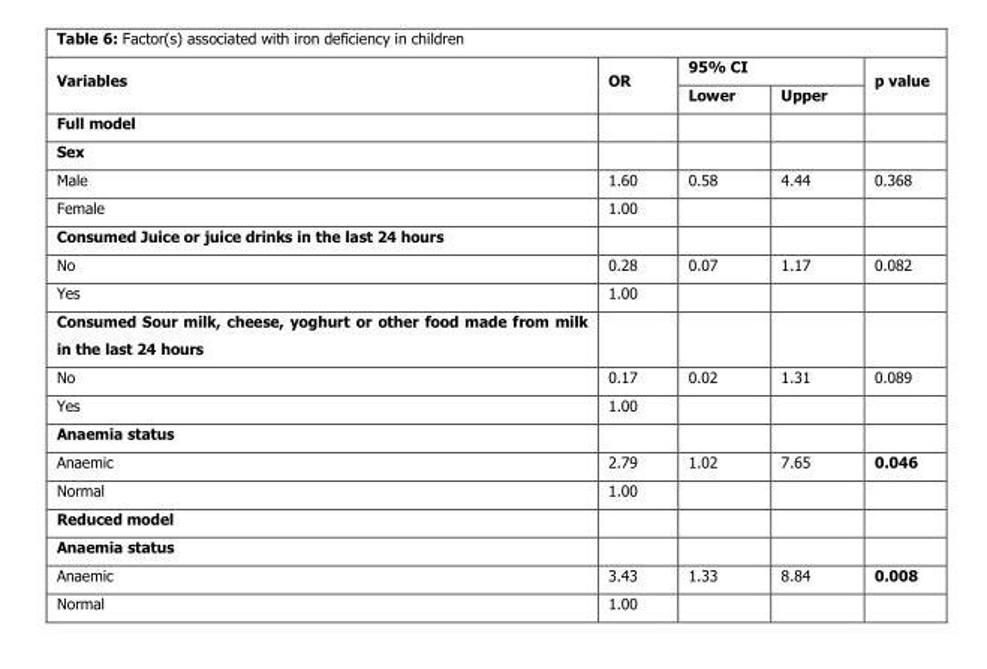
<table><thead><tr><td rowspan="2">Variables</td><td rowspan="2">OR</td><td colspan="2">95% CI</td><td rowspan="2">p value</td></tr><tr><td>Lower</td><td>Upper</td></tr></thead><tbody><tr><td colspan="5">Full model</td></tr><tr><td colspan="5">Sex</td></tr><tr><td>Male</td><td>1.60</td><td>0.58</td><td>4.44</td><td>0.368</td></tr><tr><td>Female</td><td>1.00</td><td></td><td></td><td></td></tr><tr><td colspan="5">Consumed Juice or juice drinks in the last 24 hours</td></tr><tr><td>No</td><td>0.28</td><td>0.07</td><td>1.17</td><td>0.082</td></tr><tr><td>Yes</td><td>1.00</td><td></td><td></td><td></td></tr><tr><td colspan="5">Consumed Sour milk, cheese, yoghurt or other food made from milk in the last 24 hours</td></tr><tr><td>No</td><td>0.17</td><td>0.02</td><td>1.31</td><td>0.089</td></tr><tr><td>Yes</td><td>1.00</td><td></td><td></td><td></td></tr><tr><td colspan="5">Anaemia status</td></tr><tr><td>Anaemic</td><td>2.79</td><td>1.02</td><td>7.65</td><td>0.046</td></tr><tr><td>Normal</td><td>1.00</td><td></td><td></td><td></td></tr><tr><td colspan="5">Reduced model</td></tr><tr><td colspan="5">Anaemia status</td></tr><tr><td>Anaemic</td><td>3.43</td><td>1.33</td><td>8.84</td><td>0.008</td></tr><tr><td>Normal</td><td>1.00</td><td></td><td></td><td></td></tr></tbody></table>